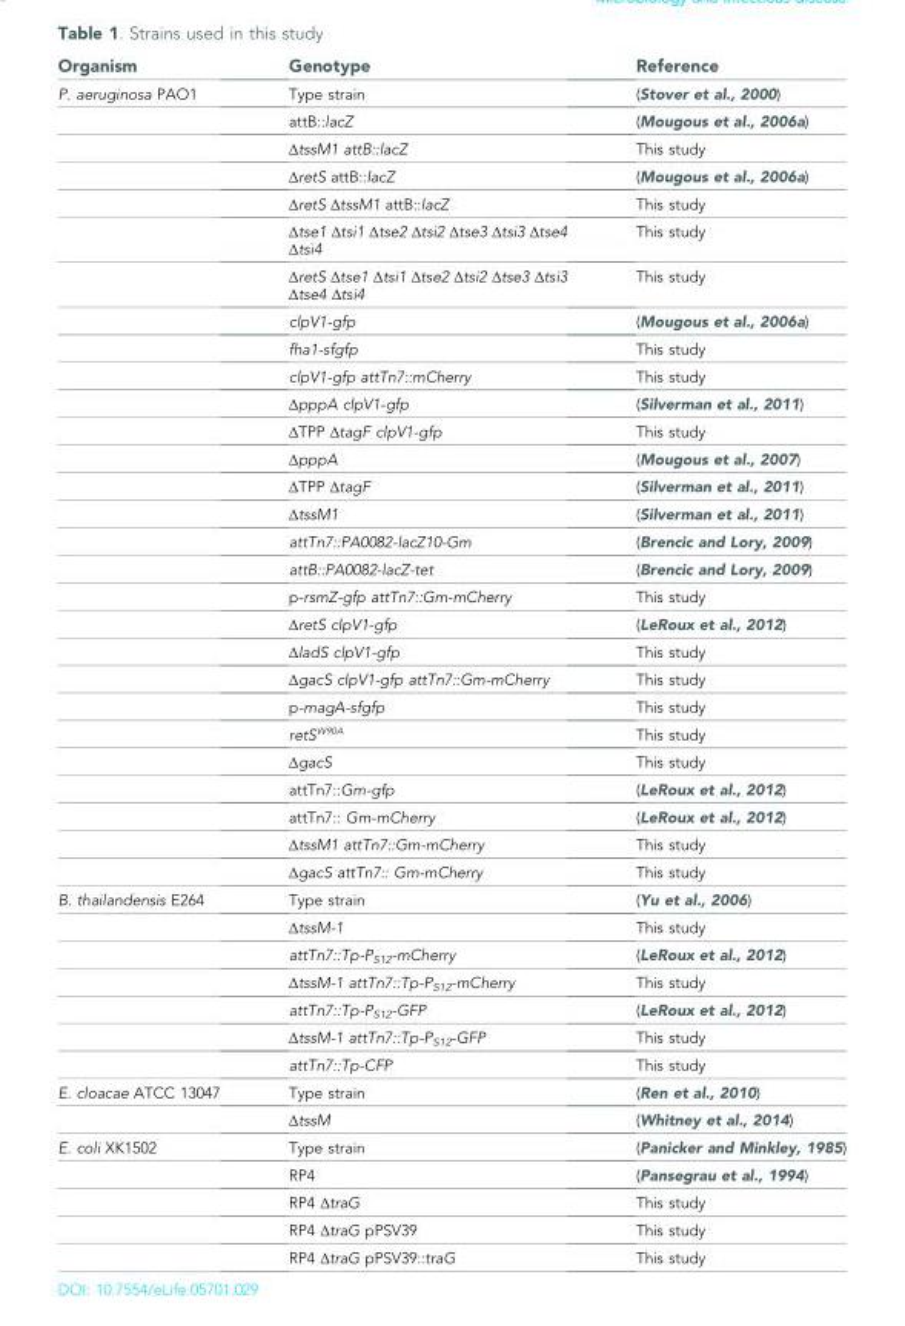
<table><thead><tr><td>Organism</td><td>Genotype</td><td>Reference</td></tr></thead><tbody><tr><td rowspan="28">P. aeruginosa PAO1</td><td>Type strain</td><td>(Stover et al., 2000)</td></tr><tr><td>attB::lacZ</td><td>(Mougous et al., 2006a)</td></tr><tr><td>ΔtssM1 attB::lacZ</td><td>This study</td></tr><tr><td>ΔretS attB::lacZ</td><td>(Mougous et al., 2006a)</td></tr><tr><td>ΔretS ΔtssM1 attB::lacZ</td><td>This study</td></tr><tr><td>Δtse1 Δtsi1 Δtse2 Δtsi2 Δtse3 Δtsi3 Δtse4 Δtsi4</td><td>This study</td></tr><tr><td>ΔretS Δtse1 Δtsi1 Δtse2 Δtsi2 Δtse3 Δtsi3 Δtse4 Δtsi4</td><td>This study</td></tr><tr><td>clpV1-gfp</td><td>(Mougous et al., 2006a)</td></tr><tr><td>fha1-sfgfp</td><td>This study</td></tr><tr><td>clpV1-gfp attTn7::mCherry</td><td>This study</td></tr><tr><td>ΔpppA clpV1-gfp</td><td>(Silverman et al., 2011)</td></tr><tr><td>ΔTPP ΔtagF clpV1-gfp</td><td>This study</td></tr><tr><td>ΔpppA</td><td>(Mougous et al., 2007)</td></tr><tr><td>ΔTPP ΔtagF</td><td>(Silverman et al., 2011)</td></tr><tr><td>ΔtssM1</td><td>(Silverman et al., 2011)</td></tr><tr><td>attTn7::PA0082-lacZ10-Gm</td><td>(Brencic and Lory, 2009)</td></tr><tr><td>attB::PA0082-lacZ-tet</td><td>(Brencic and Lory, 2009)</td></tr><tr><td>p-rsmZ-gfp attTn7::Gm-mCherry</td><td>This study</td></tr><tr><td>ΔretS clpV1-gfp</td><td>(LeRoux et al., 2012)</td></tr><tr><td>ΔladS clpV1-gfp</td><td>This study</td></tr><tr><td>ΔgacS clpV1-gfp attTn7::Gm-mCherry</td><td>This study</td></tr><tr><td>p-magA-sfgfp</td><td>This study</td></tr><tr><td>retS<sup>W90A</sup></td><td>This study</td></tr><tr><td>ΔgacS</td><td>This study</td></tr><tr><td>attTn7::Gm-gfp</td><td>(LeRoux et al., 2012)</td></tr><tr><td>attTn7:: Gm-mCherry</td><td>(LeRoux et al., 2012)</td></tr><tr><td>ΔtssM1 attTn7::Gm-mCherry</td><td>This study</td></tr><tr><td>ΔgacS attTn7:: Gm-mCherry</td><td>This study</td></tr><tr><td rowspan="7">B. thailandensis E264</td><td>Type strain</td><td>(Yu et al., 2006)</td></tr><tr><td>ΔtssM-1</td><td>This study</td></tr><tr><td>attTn7::Tp-P<sub>S12</sub>-mCherry</td><td>(LeRoux et al., 2012)</td></tr><tr><td>ΔtssM-1 attTn7::Tp-PS12-mCherry</td><td>This study</td></tr><tr><td>attTn7::Tp-P<sub>S12</sub>-GFP</td><td>(LeRoux et al., 2012)</td></tr><tr><td>ΔtssM-1 attTn7::Tp-PS12-GFP</td><td>This study</td></tr><tr><td>attTn7::Tp-CFP</td><td>This study</td></tr><tr><td rowspan="2">E. cloacae ATCC 13047</td><td>Type strain</td><td>(Ren et al., 2010)</td></tr><tr><td>ΔtssM</td><td>(Whitney et al., 2014)</td></tr><tr><td rowspan="5">E. coli XK1502</td><td>Type strain</td><td>(Panicker and Minkley, 1985)</td></tr><tr><td>RP4</td><td>(Pansegrau et al., 1994)</td></tr><tr><td>RP4 ΔtraG</td><td>This study</td></tr><tr><td>RP4 ΔtraG pPSV39</td><td>This study</td></tr><tr><td>RP4 ΔtraG pPSV39::traG</td><td>This study</td></tr></tbody></table>